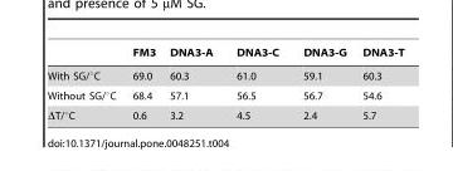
<table><thead><tr><td></td><td>FM3</td><td>DNA3-A</td><td>DNA3-C</td><td>DNA3-G</td><td>DNA3-T</td></tr></thead><tbody><tr><td>With SG/°C</td><td>69.0</td><td>60.3</td><td>61.0</td><td>59.1</td><td>60.3</td></tr><tr><td>Without SG/°C</td><td>68.4</td><td>57.1</td><td>56.5</td><td>56.7</td><td>54.6</td></tr><tr><td>ΔT/°C</td><td>0.6</td><td>3.2</td><td>4.5</td><td>2.4</td><td>5.7</td></tr></tbody></table>